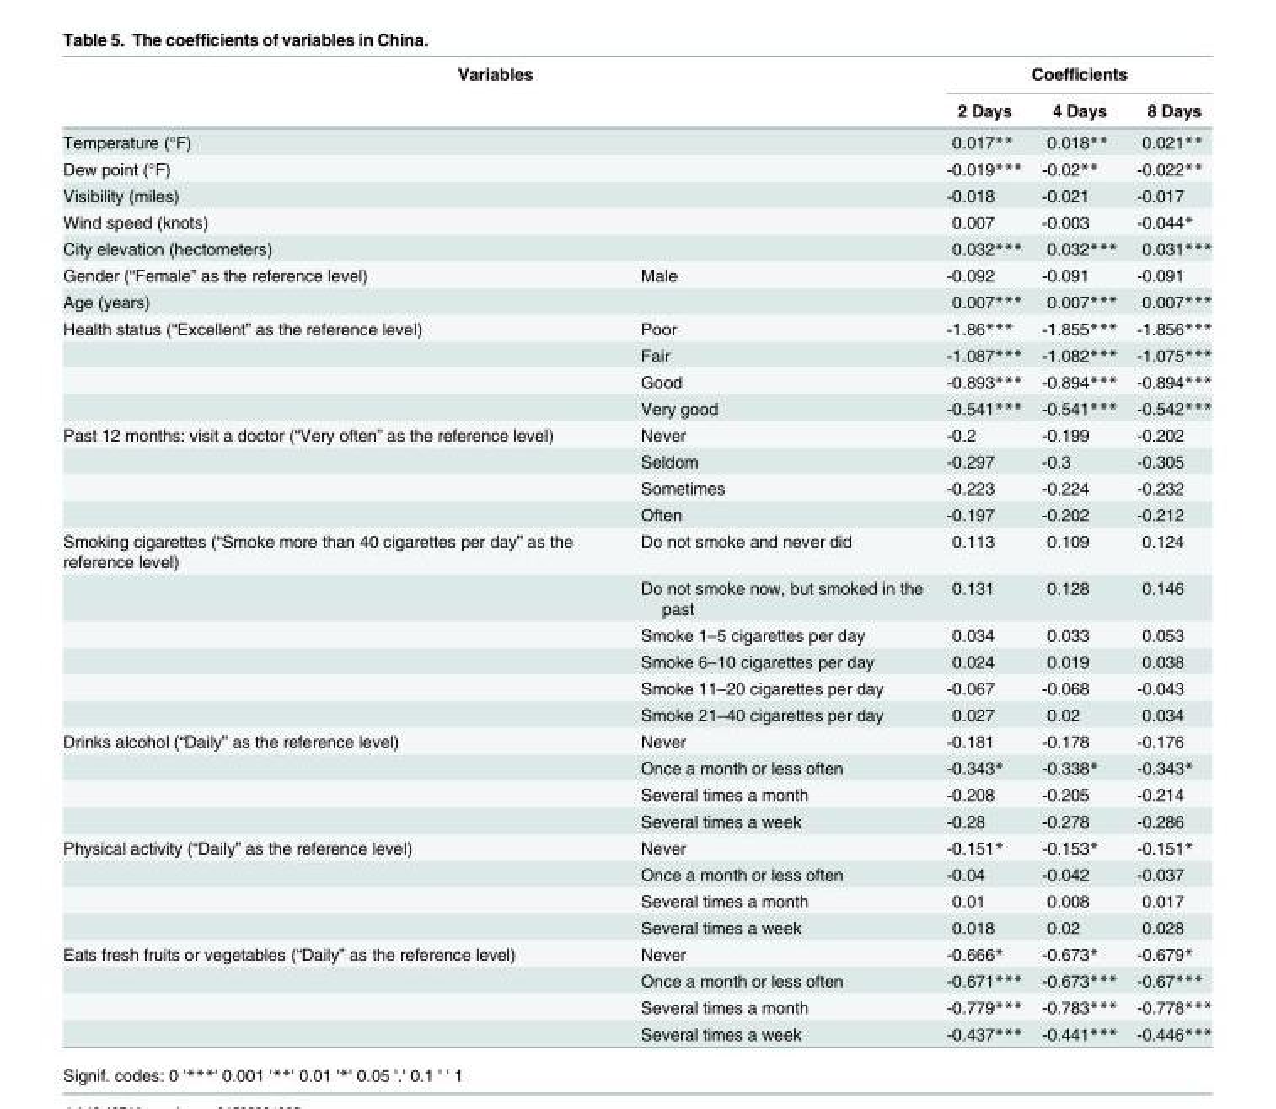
<table><thead><tr><td rowspan="2" colspan="2">Variables</td><td colspan="3">Coefficients</td></tr><tr><td rowspan="2">2 Days 0.017**</td><td rowspan="2">4 Days 0.018**</td><td rowspan="2">8 Days 0.021**</td></tr><tr><td>Temperature (°F)</td><td></td></tr></thead><tbody><tr><td>Dew point (°F)</td><td></td><td>-0.019***</td><td>-0.02**</td><td>-0.022**</td></tr><tr><td>Visibility (miles)</td><td></td><td>-0.018</td><td>-0.021</td><td>-0.017</td></tr><tr><td>Wind speed (knots)</td><td></td><td>0.007</td><td>-0.003</td><td>-0.044*</td></tr><tr><td>City elevation (hectometers)</td><td></td><td>0.032***</td><td>0.032***</td><td>0.031***</td></tr><tr><td>Gender (“Female” as the reference level)</td><td>Male</td><td>-0.092</td><td>-0.091</td><td>-0.091</td></tr><tr><td>Age (years)</td><td></td><td>0.007***</td><td>0.007***</td><td>0.007***</td></tr><tr><td rowspan="4">Health status (“Excellent” as the reference level)</td><td>Poor</td><td>-1.86***</td><td>-1.855***</td><td>-1.856***</td></tr><tr><td>Fair</td><td>-1.087***</td><td>-1.082***</td><td>-1.075***</td></tr><tr><td>Good</td><td>-0.893***</td><td>-0.894***</td><td>-0.894***</td></tr><tr><td>Very good</td><td>-0.541***</td><td>-0.541***</td><td>-0.542***</td></tr><tr><td rowspan="4">Past 12 months: visit a doctor (“Very often” as the reference level)</td><td>Never</td><td>-0.2</td><td>-0.199</td><td>-0.202</td></tr><tr><td>Seldom</td><td>-0.297</td><td>-0.3</td><td>-0.305</td></tr><tr><td>Sometimes</td><td>-0.223</td><td>-0.224</td><td>-0.232</td></tr><tr><td>Often</td><td>-0.197</td><td>-0.202</td><td>-0.212</td></tr><tr><td rowspan="6">Smoking cigarettes (“Smoke more than 40 cigarettes per day” as the reference level)</td><td>Do not smoke and never did</td><td>0.113</td><td>0.109</td><td>0.124</td></tr><tr><td>Do not smoke now, but smoked in the past</td><td>0.131</td><td>0.128</td><td>0.146</td></tr><tr><td>Smoke 1–5 cigarettes per day</td><td>0.034</td><td>0.033</td><td>0.053</td></tr><tr><td>Smoke 6–10 cigarettes per day</td><td>0.024</td><td>0.019</td><td>0.038</td></tr><tr><td>Smoke 11–20 cigarettes per day</td><td>-0.067</td><td>-0.068</td><td>-0.043</td></tr><tr><td>Smoke 21–40 cigarettes per day</td><td>0.027</td><td>0.02</td><td>0.034</td></tr><tr><td rowspan="4">Drinks alcohol (“Daily” as the reference level)</td><td>Never</td><td>-0.181</td><td>-0.178</td><td>-0.176</td></tr><tr><td>Once a month or less often</td><td>-0.343*</td><td>-0.338*</td><td>-0.343*</td></tr><tr><td>Several times a month</td><td>-0.208</td><td>-0.205</td><td>-0.214</td></tr><tr><td>Several times a week</td><td>-0.28</td><td>-0.278</td><td>-0.286</td></tr><tr><td rowspan="4">Physical activity (“Daily” as the reference level)</td><td>Never</td><td>-0.151*</td><td>-0.153*</td><td>-0.151*</td></tr><tr><td>Once a month or less often</td><td>-0.04</td><td>-0.042</td><td>-0.037</td></tr><tr><td>Several times a month</td><td>0.01</td><td>0.008</td><td>0.017</td></tr><tr><td>Several times a week</td><td>0.018</td><td>0.02</td><td>0.028</td></tr><tr><td rowspan="4">Eats fresh fruits or vegetables (“Daily” as the reference level)</td><td>Never</td><td>-0.666*</td><td>-0.673*</td><td>-0.679*</td></tr><tr><td>Once a month or less often</td><td>-0.671***</td><td>-0.673***</td><td>-0.67***</td></tr><tr><td>Several times a month</td><td>-0.779***</td><td>-0.783***</td><td>-0.778***</td></tr><tr><td>Several times a week</td><td>-0.437***</td><td>-0.441***</td><td>-0.446***</td></tr></tbody></table>